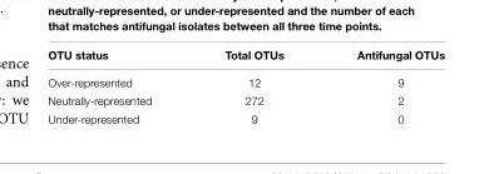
<table><thead><tr><td>OTU status</td><td>Total OTUs</td><td>Antifungal OTUs</td></tr></thead><tbody><tr><td>Over-represented</td><td>12</td><td>9</td></tr><tr><td>Neutrally-represented</td><td>272</td><td>2</td></tr><tr><td>Under-represented</td><td>9</td><td>0</td></tr></tbody></table>